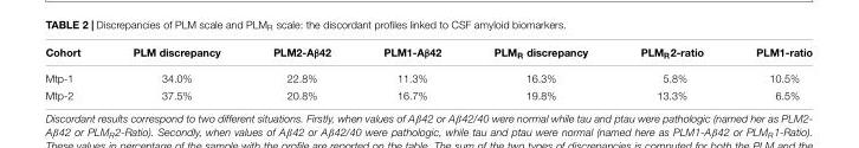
<table><thead><tr><td>Cohort</td><td>PLM discrepancy</td><td>PLM2-Aβ42</td><td>PLM1-Aβ42</td><td>PLM<sub>R</sub> discrepancy</td><td>PLM<sub>R</sub>2-ratio</td><td>PLM1-ratio</td></tr></thead><tbody><tr><td>Mtp-1</td><td>34.0%</td><td>22.8%</td><td>11.3%</td><td>16.3%</td><td>5.8%</td><td>10.5%</td></tr><tr><td>Mtp-2</td><td>37.5%</td><td>20.8%</td><td>16.7%</td><td>19.8%</td><td>13.3%</td><td>6.5%</td></tr></tbody></table>